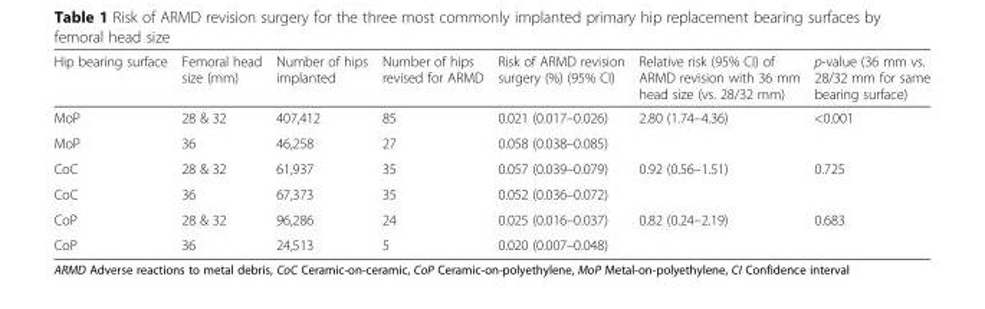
<table><thead><tr><td>Hip bearing surface</td><td>Femoral head size (mm)</td><td>Number of hips implanted</td><td>Number of hips revised for ARMD</td><td>Risk of ARMD revision surgery (%) (95% CI)</td><td>Relative risk (95% CI) of ARMD revision with 36 mm head size (vs. 28/32 mm)</td><td>p-value (36 mm vs. 28/32 mm for same bearing surface)</td></tr></thead><tbody><tr><td>MoP</td><td>28 &amp; 32</td><td>407,412</td><td>85</td><td>0.021 (0.017–0.026)</td><td rowspan="2">2.80 (1.74–4.36)</td><td rowspan="2">&lt;0.001</td></tr><tr><td>MoP</td><td>36</td><td>46,258</td><td>27</td><td>0.058 (0.038–0.085)</td></tr><tr><td>CoC</td><td>28 &amp; 32</td><td>61,937</td><td>35</td><td>0.057 (0.039–0.079)</td><td rowspan="2">0.92 (0.56–1.51)</td><td rowspan="2">0.725</td></tr><tr><td>CoC</td><td>36</td><td>67,373</td><td>35</td><td>0.052 (0.036–0.072)</td></tr><tr><td>CoP</td><td>28 &amp; 32</td><td>96,286</td><td>24</td><td>0.025 (0.016–0.037)</td><td rowspan="2">0.82 (0.24–2.19)</td><td rowspan="2">0.683</td></tr><tr><td>CoP</td><td>36</td><td>24,513</td><td>5</td><td>0.020 (0.007–0.048)</td></tr></tbody></table>